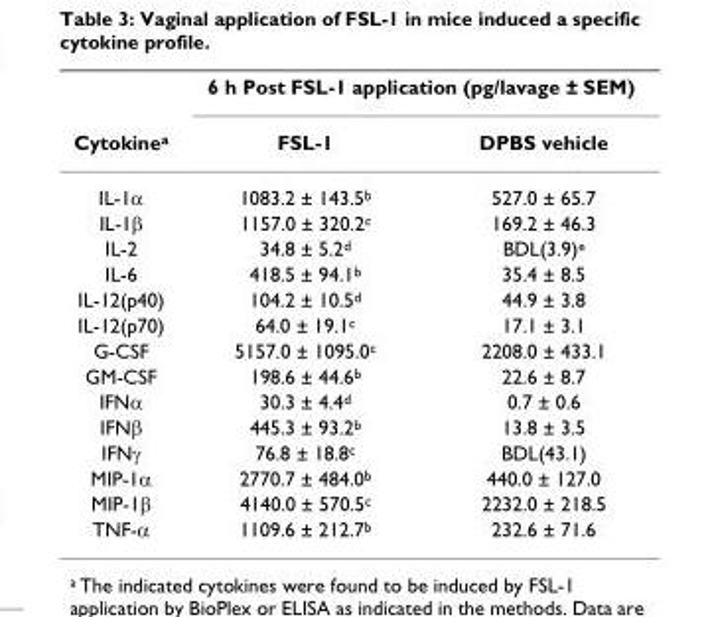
<table><thead><tr><td rowspan="2">Cytokine<sup>a</sup></td><td colspan="2">6 h Post FSL-1 application (pg/lavage ± SEM)</td></tr><tr><td>FSL-1</td><td>DPBS vehicle</td></tr></thead><tbody><tr><td>IL-1α</td><td>1083.2 ± 143.5<sup>b</sup></td><td>527.0 ± 65.7</td></tr><tr><td>IL-1β</td><td>1157.0 ± 320.2<sup>c</sup></td><td>169.2 ± 46.3</td></tr><tr><td>IL-2</td><td>34.8 ± 5.2<sup>d</sup></td><td>BDL(3.9)<sup>e</sup></td></tr><tr><td>IL-6</td><td>418.5 ± 94.1<sup>b</sup></td><td>35.4 ± 8.5</td></tr><tr><td>IL-12(p40)</td><td>104.2 ± 10.5<sup>d</sup></td><td>44.9 ± 3.8</td></tr><tr><td>IL-12(p70)</td><td>64.0 ± 19.1<sup>c</sup></td><td>17.1 ± 3.1</td></tr><tr><td>G-CSF</td><td>5157.0 ± 1095.0<sup>c</sup></td><td>2208.0 ± 433.1</td></tr><tr><td>GM-CSF</td><td>198.6 ± 44.6<sup>b</sup></td><td>22.6 ± 8.7</td></tr><tr><td>IFNα</td><td>30.3 ± 4.4<sup>d</sup></td><td>0.7 ± 0.6</td></tr><tr><td>IFNβ</td><td>445.3 ± 93.2<sup>b</sup></td><td>13.8 ± 3.5</td></tr><tr><td>IFNγ</td><td>76.8 ± 18.8<sup>c</sup></td><td>BDL(43.1)</td></tr><tr><td>MIP-1α</td><td>2770.7 ± 484.0<sup>b</sup></td><td>440.0 ± 127.0</td></tr><tr><td>MIP-1β</td><td>4140.0 ± 570.5<sup>c</sup></td><td>2232.0 ± 218.5</td></tr><tr><td>TNF-α</td><td>1109.6 ± 212.7<sup>b</sup></td><td>232.6 ± 71.6</td></tr></tbody></table>